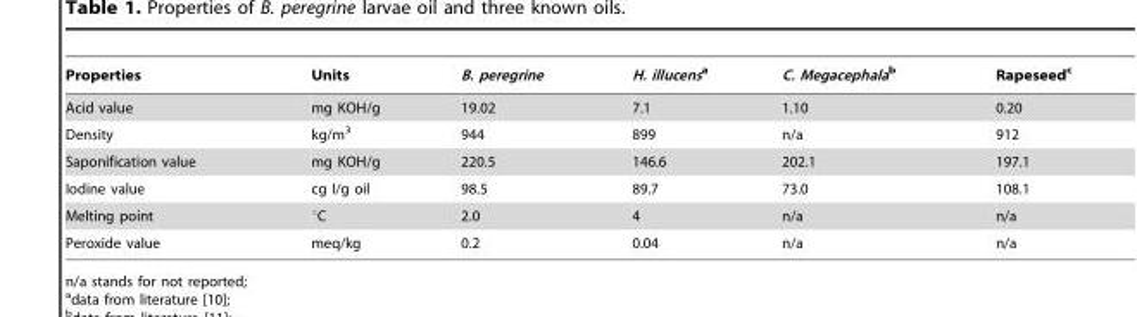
<table><thead><tr><td>Properties</td><td>Units</td><td>B. peregrine</td><td>H. illucensa</td><td>C. Megacephalab</td><td>Rapeseed<sup>c</sup></td></tr></thead><tbody><tr><td>Acid value</td><td>mg KOH/g</td><td>19.02</td><td>7.1</td><td>1.10</td><td>0.20</td></tr><tr><td>Density</td><td>kg/m<sup>3</sup></td><td>944</td><td>899</td><td>n/a</td><td>912</td></tr><tr><td>Saponification value</td><td>mg KOH/g</td><td>220.5</td><td>146.6</td><td>202.1</td><td>197.1</td></tr><tr><td>Iodine value</td><td>cg I/g oil</td><td>98.5</td><td>89.7</td><td>73.0</td><td>108.1</td></tr><tr><td>Melting point</td><td>°C</td><td>2.0</td><td>4</td><td>n/a</td><td>n/a</td></tr><tr><td>Peroxide value</td><td>meq/kg</td><td>0.2</td><td>0.04</td><td>n/a</td><td>n/a</td></tr></tbody></table>